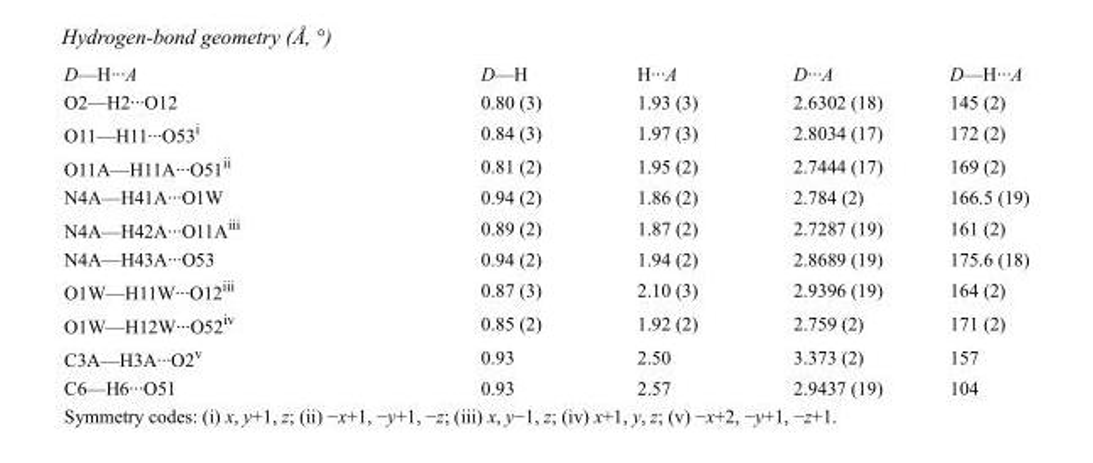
<table><tbody><tr><td>D—H···A</td><td>D—H</td><td>H···A</td><td>D···A</td><td>D—H···A</td></tr><tr><td>O2—H2···O12</td><td>0.80 (3)</td><td>1.93 (3)</td><td>2.6302 (18)</td><td>145 (2)</td></tr><tr><td>O11—H11···O53<sup>i</sup></td><td>0.84 (3)</td><td>1.97 (3)</td><td>2.8034 (17)</td><td>172 (2)</td></tr><tr><td>O11A—H11A···O51<sup>ii</sup></td><td>0.81 (2)</td><td>1.95 (2)</td><td>2.7444 (17)</td><td>169 (2)</td></tr><tr><td>N4A—H41A···O1W</td><td>0.94 (2)</td><td>1.86 (2)</td><td>2.784 (2)</td><td>166.5 (19)</td></tr><tr><td>N4A—H42A···O11A<sup>iii</sup></td><td>0.89 (2)</td><td>1.87 (2)</td><td>2.7287 (19)</td><td>161 (2)</td></tr><tr><td>N4A—H43A···O53</td><td>0.94 (2)</td><td>1.94 (2)</td><td>2.8689 (19)</td><td>175.6 (18)</td></tr><tr><td>O1W—H11W···O12<sup>iii</sup></td><td>0.87 (3)</td><td>2.10 (3)</td><td>2.9396 (19)</td><td>164 (2)</td></tr><tr><td>O1W—H12W···O52<sup>iv</sup></td><td>0.85 (2)</td><td>1.92 (2)</td><td>2.759 (2)</td><td>171 (2)</td></tr><tr><td>C3A—H3A···O2<sup>v</sup></td><td>0.93</td><td>2.50</td><td>3.373 (2)</td><td>157</td></tr><tr><td>C6—H6···O51</td><td>0.93</td><td>2.57</td><td>2.9437 (19)</td><td>104</td></tr></tbody></table>